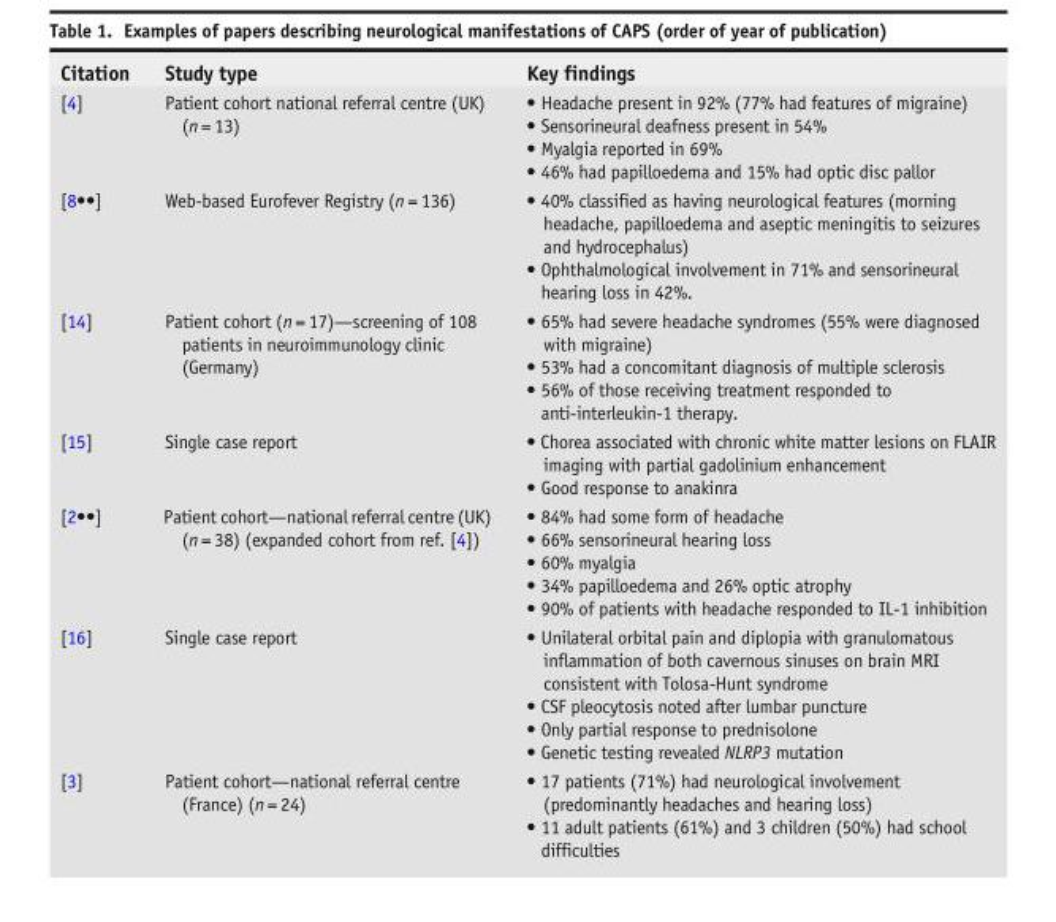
<table><thead><tr><td>Citation</td><td>Study type</td><td>Key findings</td></tr></thead><tbody><tr><td>[4]</td><td>Patient cohort national referral centre (UK) (n = 13)</td><td>• Headache present in 92% (77% had features of migraine) • Sensorineural deafness present in 54% • Myalgia reported in 69% • 46% had papilloedema and 15% had optic disc pallor</td></tr><tr><td>[8••]</td><td>Web-based Eurofever Registry (n = 136)</td><td>• 40% classified as having neurological features (morning headache, papilloedema and aseptic meningitis to seizures and hydrocephalus) • Ophthalmological involvement in 71% and sensorineural hearing loss in 42%.</td></tr><tr><td>[14]</td><td>Patient cohort (n = 17)—screening of 108 patients in neuroimmunology clinic (Germany)</td><td>• 65% had severe headache syndromes (55% were diagnosed with migraine) • 53% had a concomitant diagnosis of multiple sclerosis • 56% of those receiving treatment responded to anti-interleukin-1 therapy.</td></tr><tr><td>[15]</td><td>Single case report</td><td>• Chorea associated with chronic white matter lesions on FLAIR imaging with partial gadolinium enhancement • Good response to anakinra</td></tr><tr><td>[2••]</td><td>Patient cohort—national referral centre (UK) (n = 38) (expanded cohort from ref. [4])</td><td>• 84% had some form of headache • 66% sensorineural hearing loss • 60% myalgia • 34% papilloedema and 26% optic atrophy • 90% of patients with headache responded to IL-1 inhibition</td></tr><tr><td>[16]</td><td>Single case report</td><td>• Unilateral orbital pain and diplopia with granulomatous inflammation of both cavernous sinuses on brain MRI consistent with Tolosa-Hunt syndrome • CSF pleocytosis noted after lumbar puncture • Only partial response to prednisolone • Genetic testing revealed NLRP3 mutation</td></tr><tr><td>[3]</td><td>Patient cohort—national referral centre (France) (n = 24)</td><td>• 17 patients (71%) had neurological involvement (predominantly headaches and hearing loss) • 11 adult patients (61%) and 3 children (50%) had school difficulties</td></tr></tbody></table>